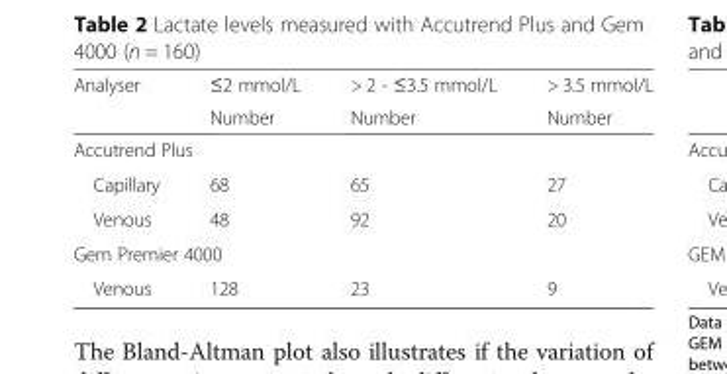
<table><thead><tr><td rowspan="2">Analyser</td><td rowspan="2">≤2 mmol/L Number</td><td rowspan="2">&gt; 2 - ≤3.5 mmol/L Number</td><td rowspan="2">&gt; 3.5 mmol/L Number</td></tr><tr></tr></thead><tbody><tr><td colspan="4">Accutrend Plus</td></tr><tr><td>Capillary</td><td>68</td><td>65</td><td>27</td></tr><tr><td>Venous</td><td>48</td><td>92</td><td>20</td></tr><tr><td colspan="4">Gem Premier 4000</td></tr><tr><td>Venous</td><td>128</td><td>23</td><td>9</td></tr></tbody></table>